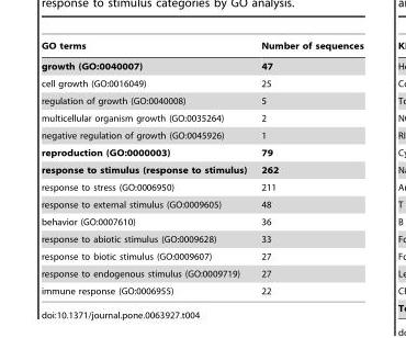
<table><thead><tr><td>GO terms</td><td>Number of sequences</td></tr></thead><tbody><tr><td>growth (GO:0040007)</td><td>47</td></tr><tr><td>cell growth (GO:0016049)</td><td>25</td></tr><tr><td>regulation of growth (GO:0040008)</td><td>5</td></tr><tr><td>multicellular organism growth (GO:0035264)</td><td>2</td></tr><tr><td>negative regulation of growth (GO:0045926)</td><td>1</td></tr><tr><td>reproduction (GO:0000003)</td><td>79</td></tr><tr><td>response to stimulus (response to stimulus)</td><td>262</td></tr><tr><td>response to stress (GO:0006950)</td><td>211</td></tr><tr><td>response to external stimulus (GO:0009605)</td><td>48</td></tr><tr><td>behavior (GO:0007610)</td><td>36</td></tr><tr><td>response to abiotic stimulus (GO:0009628)</td><td>33</td></tr><tr><td>response to biotic stimulus (GO:0009607)</td><td>27</td></tr><tr><td>response to endogenous stimulus (GO:0009719)</td><td>27</td></tr><tr><td>immune response (GO:0006955)</td><td>22</td></tr></tbody></table>